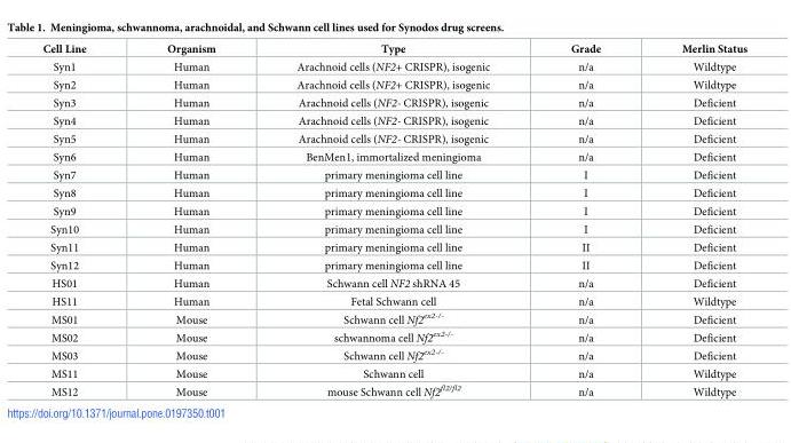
<table><thead><tr><td>Cell Line</td><td>Organism</td><td>Type</td><td>Grade</td><td>Merlin Status</td></tr></thead><tbody><tr><td>Syn1</td><td>Human</td><td>Arachnoid cells (NF2+ CRISPR), isogenic</td><td>n/a</td><td>Wildtype</td></tr><tr><td>Syn2</td><td>Human</td><td>Arachnoid cells (NF2+ CRISPR), isogenic</td><td>n/a</td><td>Wildtype</td></tr><tr><td>Syn3</td><td>Human</td><td>Arachnoid cells (NF2- CRISPR), isogenic</td><td>n/a</td><td>Deficient</td></tr><tr><td>Syn4</td><td>Human</td><td>Arachnoid cells (NF2- CRISPR), isogenic</td><td>n/a</td><td>Deficient</td></tr><tr><td>Syn5</td><td>Human</td><td>Arachnoid cells (NF2- CRISPR), isogenic</td><td>n/a</td><td>Deficient</td></tr><tr><td>Syn6</td><td>Human</td><td>BenMen1, immortalized meningioma</td><td>n/a</td><td>Deficient</td></tr><tr><td>Syn7</td><td>Human</td><td>primary meningioma cell line</td><td>I</td><td>Deficient</td></tr><tr><td>Syn8</td><td>Human</td><td>primary meningioma cell line</td><td>I</td><td>Deficient</td></tr><tr><td>Syn9</td><td>Human</td><td>primary meningioma cell line</td><td>I</td><td>Deficient</td></tr><tr><td>Syn10</td><td>Human</td><td>primary meningioma cell line</td><td>I</td><td>Deficient</td></tr><tr><td>Syn11</td><td>Human</td><td>primary meningioma cell line</td><td>II</td><td>Deficient</td></tr><tr><td>Syn12</td><td>Human</td><td>primary meningioma cell line</td><td>II</td><td>Deficient</td></tr><tr><td>HS01</td><td>Human</td><td>Schwann cell NF2 shRNA 45</td><td>n/a</td><td>Deficient</td></tr><tr><td>HS11</td><td>Human</td><td>Fetal Schwann cell</td><td>n/a</td><td>Wildtype</td></tr><tr><td>MS01</td><td>Mouse</td><td>Schwann cell Nf2<sup>ex2-/-</sup></td><td>n/a</td><td>Deficient</td></tr><tr><td>MS02</td><td>Mouse</td><td>schwannoma cell Nf2<sup>ex2-/-</sup></td><td>n/a</td><td>Deficient</td></tr><tr><td>MS03</td><td>Mouse</td><td>Schwann cell Nf2<sup>ex2-/-</sup></td><td>n/a</td><td>Deficient</td></tr><tr><td>MS11</td><td>Mouse</td><td>Schwann cell</td><td>n/a</td><td>Wildtype</td></tr><tr><td>MS12</td><td>Mouse</td><td>mouse Schwann cell Nf2<sup>fl2/fl2</sup></td><td>n/a</td><td>Wildtype</td></tr></tbody></table>